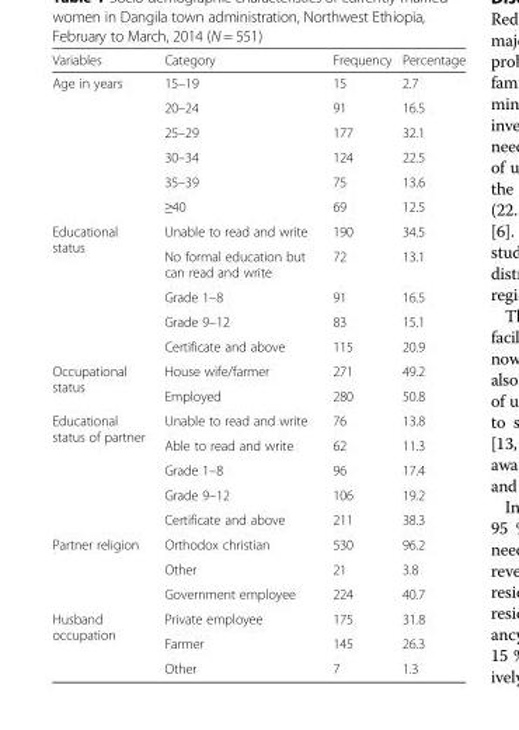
<table><thead><tr><td>Variables</td><td>Category</td><td>Frequency</td><td>Percentage</td></tr></thead><tbody><tr><td rowspan="6">Age in years</td><td>15–19</td><td>15</td><td>2.7</td></tr><tr><td>20–24</td><td>91</td><td>16.5</td></tr><tr><td>25–29</td><td>177</td><td>32.1</td></tr><tr><td>30–34</td><td>124</td><td>22.5</td></tr><tr><td>35–39</td><td>75</td><td>13.6</td></tr><tr><td>≥40</td><td>69</td><td>12.5</td></tr><tr><td rowspan="5">Educational status</td><td>Unable to read and write</td><td>190</td><td>34.5</td></tr><tr><td>No formal education but can read and write</td><td>72</td><td>13.1</td></tr><tr><td>Grade 1–8</td><td>91</td><td>16.5</td></tr><tr><td>Grade 9–12</td><td>83</td><td>15.1</td></tr><tr><td>Certificate and above</td><td>115</td><td>20.9</td></tr><tr><td rowspan="2">Occupational status</td><td>House wife/farmer</td><td>271</td><td>49.2</td></tr><tr><td>Employed</td><td>280</td><td>50.8</td></tr><tr><td rowspan="5">Educational status of partner</td><td>Unable to read and write</td><td>76</td><td>13.8</td></tr><tr><td>Able to read and write</td><td>62</td><td>11.3</td></tr><tr><td>Grade 1–8</td><td>96</td><td>17.4</td></tr><tr><td>Grade 9–12</td><td>106</td><td>19.2</td></tr><tr><td>Certificate and above</td><td>211</td><td>38.3</td></tr><tr><td rowspan="3">Partner religion</td><td>Orthodox christian</td><td>530</td><td>96.2</td></tr><tr><td>Other</td><td>21</td><td>3.8</td></tr><tr><td>Government employee</td><td>224</td><td>40.7</td></tr><tr><td rowspan="3">Husband occupation</td><td>Private employee</td><td>175</td><td>31.8</td></tr><tr><td>Farmer</td><td>145</td><td>26.3</td></tr><tr><td>Other</td><td>7</td><td>1.3</td></tr></tbody></table>